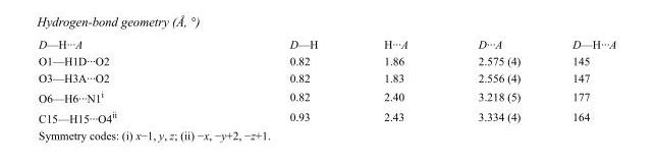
<table><tbody><tr><td>D—H···A</td><td>D—H</td><td>H···A</td><td>D···A</td><td>D—H···A</td></tr><tr><td>O1—H1D···O2</td><td>0.82</td><td>1.86</td><td>2.575 (4)</td><td>145</td></tr><tr><td>O3—H3A···O2</td><td>0.82</td><td>1.83</td><td>2.556 (4)</td><td>147</td></tr><tr><td>O6—H6···N1<sup>i</sup></td><td>0.82</td><td>2.40</td><td>3.218 (5)</td><td>177</td></tr><tr><td>C15—H15···O4<sup>ii</sup></td><td>0.93</td><td>2.43</td><td>3.334 (4)</td><td>164</td></tr></tbody></table>